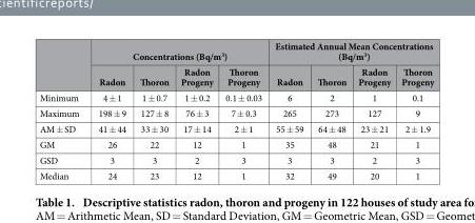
<table><thead><tr><td rowspan="2"></td><td colspan="4">Concentrations (Bq/m<sup>3</sup>)</td><td colspan="4">Estimated Annual Mean Concentrations (Bq/m<sup>3</sup>)</td></tr><tr><td>Radon</td><td>Thoron</td><td>Radon Progeny</td><td>Thoron Progeny</td><td>Radon</td><td>Thoron</td><td>Radon Progeny</td><td>Thoron Progeny</td></tr></thead><tbody><tr><td>Minimum</td><td>4 ± 1</td><td>1 ± 0.7</td><td>1 ± 0.2</td><td>0.1 ± 0.03</td><td>6</td><td>2</td><td>1</td><td>0.1</td></tr><tr><td>Maximum</td><td>198 ± 9</td><td>127 ± 8</td><td>76 ± 3</td><td>7 ± 0.3</td><td>265</td><td>273</td><td>127</td><td>9</td></tr><tr><td>AM ± SD</td><td>41 ± 44</td><td>33 ± 30</td><td>17 ± 14</td><td>2 ± 1</td><td>55 ± 59</td><td>64 ± 48</td><td>23 ± 21</td><td>2 ± 1.9</td></tr><tr><td>GM</td><td>26</td><td>22</td><td>12</td><td>1</td><td>35</td><td>48</td><td>21</td><td>1</td></tr><tr><td>GSD</td><td>3</td><td>3</td><td>2</td><td>3</td><td>3</td><td>3</td><td>2</td><td>3</td></tr><tr><td>Median</td><td>24</td><td>23</td><td>12</td><td>1</td><td>32</td><td>49</td><td>20</td><td>1</td></tr></tbody></table>